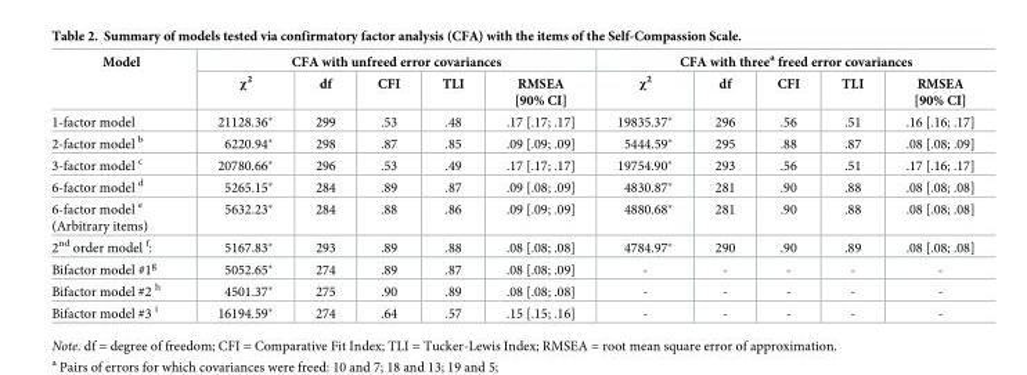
<table><thead><tr><td rowspan="2">Model</td><td colspan="5">CFA with unfreed error covariances</td><td colspan="5">CFA with three<sup>a</sup> freed error covariances</td></tr><tr><td>χ<sup>2</sup></td><td>df</td><td>CFI</td><td>TLI</td><td>RMSEA [90% CI]</td><td>χ<sup>2</sup></td><td>df</td><td>CFI</td><td>TLI</td><td>RMSEA [90% CI]</td></tr></thead><tbody><tr><td>1-factor model</td><td>21128.36*</td><td>299</td><td>.53</td><td>.48</td><td>.17 [.17; .17]</td><td>19835.37*</td><td>296</td><td>.56</td><td>.51</td><td>.16 [.16; .17]</td></tr><tr><td>2-factor model <sup>b</sup></td><td>6220.94*</td><td>298</td><td>.87</td><td>.85</td><td>.09 [.09; .09]</td><td>5444.59*</td><td>295</td><td>.88</td><td>.87</td><td>.08 [.08; .09]</td></tr><tr><td>3-factor model <sup>c</sup></td><td>20780.66*</td><td>296</td><td>.53</td><td>.49</td><td>.17 [.17; .17]</td><td>19754.90*</td><td>293</td><td>.56</td><td>.51</td><td>.17 [.16; .17]</td></tr><tr><td>6-factor model <sup>d</sup></td><td>5265.15*</td><td>284</td><td>.89</td><td>.87</td><td>.09 [.08; .09]</td><td>4830.87*</td><td>281</td><td>.90</td><td>.88</td><td>.08 [.08; .08]</td></tr><tr><td>6-factor model <sup>e</sup> (Arbitrary items)</td><td>5632.23*</td><td>284</td><td>.88</td><td>.86</td><td>.09 [.09; .09]</td><td>4880.68*</td><td>281</td><td>.90</td><td>.88</td><td>.08 [.08; .08]</td></tr><tr><td>2<sup>nd</sup> order model <sup>f</sup>:</td><td>5167.83*</td><td>293</td><td>.89</td><td>.88</td><td>.08 [.08; .08]</td><td>4784.97*</td><td>290</td><td>.90</td><td>.89</td><td>.08 [.08; .08]</td></tr><tr><td>Bifactor model #1<sup>g</sup></td><td>5052.65*</td><td>274</td><td>.89</td><td>.87</td><td>.08 [.08; .09]</td><td>-</td><td>-</td><td>-</td><td>-</td><td>-</td></tr><tr><td>Bifactor model #2 <sup>h</sup></td><td>4501.37*</td><td>275</td><td>.90</td><td>.89</td><td>.08 [.08; .08]</td><td>-</td><td>-</td><td>-</td><td>-</td><td>-</td></tr><tr><td>Bifactor model #3 <sup>i</sup></td><td>16194.59*</td><td>274</td><td>.64</td><td>.57</td><td>.15 [.15; .16]</td><td>-</td><td>-</td><td>-</td><td>-</td><td>-</td></tr></tbody></table>